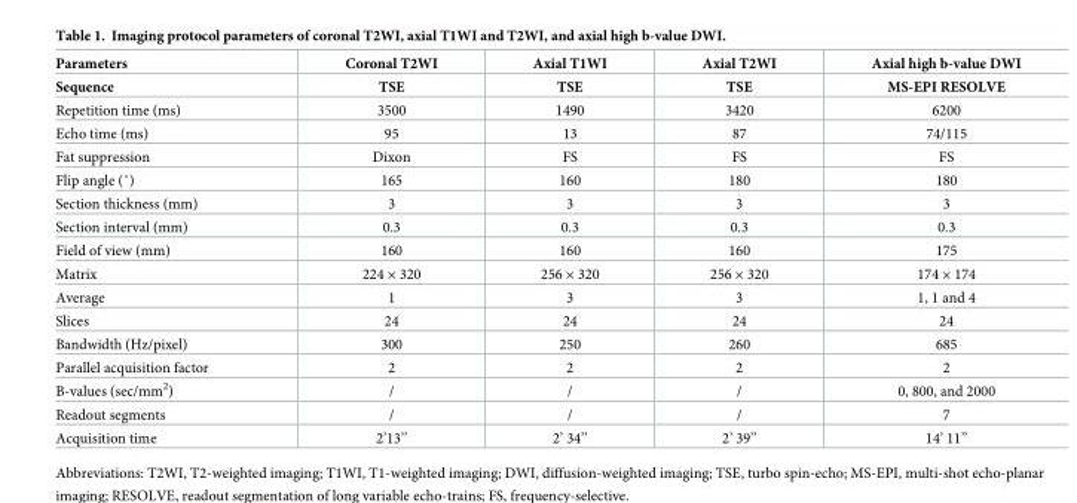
<table><thead><tr><td rowspan="2">Parameters Sequence</td><td rowspan="2">Coronal T2WI TSE</td><td rowspan="2">Axial T1WI TSE</td><td rowspan="2">Axial T2WI TSE</td><td rowspan="2">Axial high b-value DWI MS-EPI RESOLVE</td></tr><tr></tr></thead><tbody><tr><td>Repetition time (ms)</td><td>3500</td><td>1490</td><td>3420</td><td>6200</td></tr><tr><td>Echo time (ms)</td><td>95</td><td>13</td><td>87</td><td>74/115</td></tr><tr><td>Fat suppression</td><td>Dixon</td><td>FS</td><td>FS</td><td>FS</td></tr><tr><td>Flip angle (˚)</td><td>165</td><td>160</td><td>180</td><td>180</td></tr><tr><td>Section thickness (mm)</td><td>3</td><td>3</td><td>3</td><td>3</td></tr><tr><td>Section interval (mm)</td><td>0.3</td><td>0.3</td><td>0.3</td><td>0.3</td></tr><tr><td>Field of view (mm)</td><td>160</td><td>160</td><td>160</td><td>175</td></tr><tr><td>Matrix</td><td>224 × 320</td><td>256 × 320</td><td>256 × 320</td><td>174 × 174</td></tr><tr><td>Average</td><td>1</td><td>3</td><td>3</td><td>1, 1 and 4</td></tr><tr><td>Slices</td><td>24</td><td>24</td><td>24</td><td>24</td></tr><tr><td>Bandwidth (Hz/pixel)</td><td>300</td><td>250</td><td>260</td><td>685</td></tr><tr><td>Parallel acquisition factor</td><td>2</td><td>2</td><td>2</td><td>2</td></tr><tr><td>B-values (sec/mm<sup>2</sup>)</td><td>/</td><td>/</td><td>/</td><td>0, 800, and 2000</td></tr><tr><td>Readout segments</td><td>/</td><td>/</td><td>/</td><td>7</td></tr><tr><td>Acquisition time</td><td>2’13’’</td><td>2’ 34’’</td><td>2’ 39’’</td><td>14’ 11’’</td></tr></tbody></table>